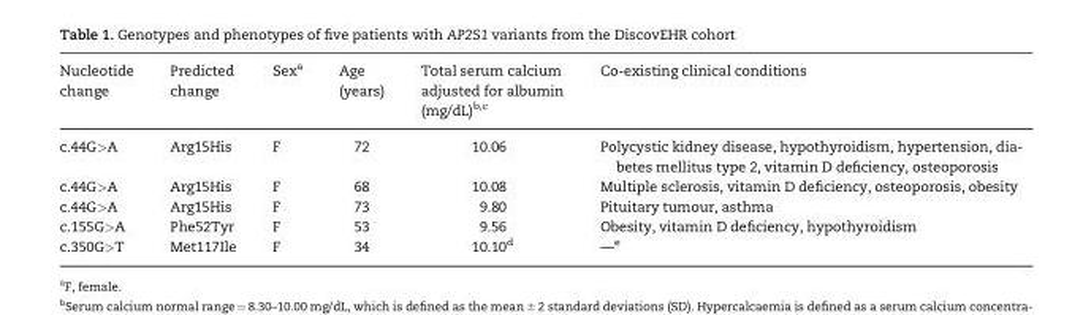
<table><thead><tr><td>Nucleotide change</td><td>Predicted change</td><td>Sex<sup>a</sup></td><td>Age (years)</td><td>Total serum calcium adjusted for albumin (mg/dL)<sup>b,c</sup></td><td>Co-existing clinical conditions</td></tr></thead><tbody><tr><td>c.44G&gt;A</td><td>Arg15His</td><td>F</td><td>72</td><td>10.06</td><td>Polycystic kidney disease, hypothyroidism, hypertension, dia- betes mellitus type 2, vitamin D deficiency, osteoporosis</td></tr><tr><td>c.44G&gt;A</td><td>Arg15His</td><td>F</td><td>68</td><td>10.08</td><td>Multiple sclerosis, vitamin D deficiency, osteoporosis, obesity</td></tr><tr><td>c.44G&gt;A</td><td>Arg15His</td><td>F</td><td>73</td><td>9.80</td><td>Pituitary tumour, asthma</td></tr><tr><td>c.155G&gt;A</td><td>Phe52Tyr</td><td>F</td><td>53</td><td>9.56</td><td>Obesity, vitamin D deficiency, hypothyroidism</td></tr><tr><td>c.350G&gt;T</td><td>Met117Ile</td><td>F</td><td>34</td><td>10.10<sup>d</sup></td><td>—<sup>e</sup></td></tr></tbody></table>